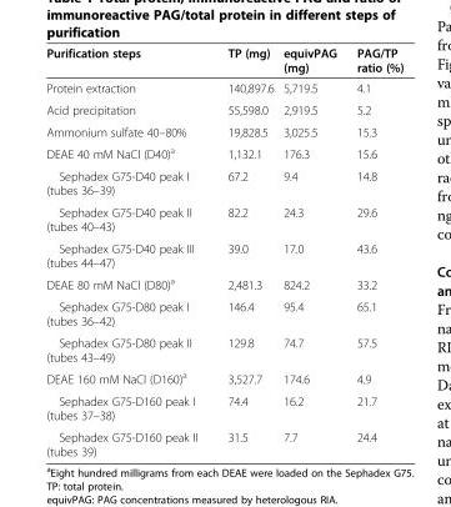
<table><thead><tr><td>Purification steps</td><td>TP (mg)</td><td>equivPAG (mg)</td><td>PAG/TP ratio (%)</td></tr></thead><tbody><tr><td>Protein extraction</td><td>140,897.6</td><td>5,719.5</td><td>4.1</td></tr><tr><td>Acid precipitation</td><td>55,598.0</td><td>2,919.5</td><td>5.2</td></tr><tr><td>Ammonium sulfate 40–80%</td><td>19,828.5</td><td>3,025.5</td><td>15.3</td></tr><tr><td>DEAE 40 mM NaCl (D40)<sup>a</sup></td><td>1,132.1</td><td>176.3</td><td>15.6</td></tr><tr><td>Sephadex G75-D40 peak I (tubes 36–39)</td><td>67.2</td><td>9.4</td><td>14.8</td></tr><tr><td>Sephadex G75-D40 peak II (tubes 40–43)</td><td>82.2</td><td>24.3</td><td>29.6</td></tr><tr><td>Sephadex G75-D40 peak III (tubes 44–47)</td><td>39.0</td><td>17.0</td><td>43.6</td></tr><tr><td>DEAE 80 mM NaCl (D80)<sup>a</sup></td><td>2,481.3</td><td>824.2</td><td>33.2</td></tr><tr><td>Sephadex G75-D80 peak I (tubes 36–42)</td><td>146.4</td><td>95.4</td><td>65.1</td></tr><tr><td>Sephadex G75-D80 peak II (tubes 43–49)</td><td>129.8</td><td>74.7</td><td>57.5</td></tr><tr><td>DEAE 160 mM NaCl (D160)<sup>a</sup></td><td>3,527.7</td><td>174.6</td><td>4.9</td></tr><tr><td>Sephadex G75-D160 peak I (tubes 37–38)</td><td>74.4</td><td>16.2</td><td>21.7</td></tr><tr><td>Sephadex G75-D160 peak II (tubes 39)</td><td>31.5</td><td>7.7</td><td>24.4</td></tr></tbody></table>